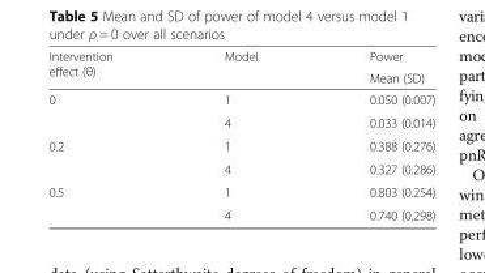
<table><thead><tr><td rowspan="2">Intervention effect (θ)</td><td rowspan="2">Model</td><td rowspan="2">Power Mean (SD)</td></tr><tr></tr></thead><tbody><tr><td rowspan="2">0</td><td>1</td><td>0.050 (0.007)</td></tr><tr><td>4</td><td>0.033 (0.014)</td></tr><tr><td rowspan="2">0.2</td><td>1</td><td>0.388 (0.276)</td></tr><tr><td>4</td><td>0.327 (0.286)</td></tr><tr><td rowspan="2">0.5</td><td>1</td><td>0.803 (0.254)</td></tr><tr><td>4</td><td>0.740 (0.298)</td></tr></tbody></table>